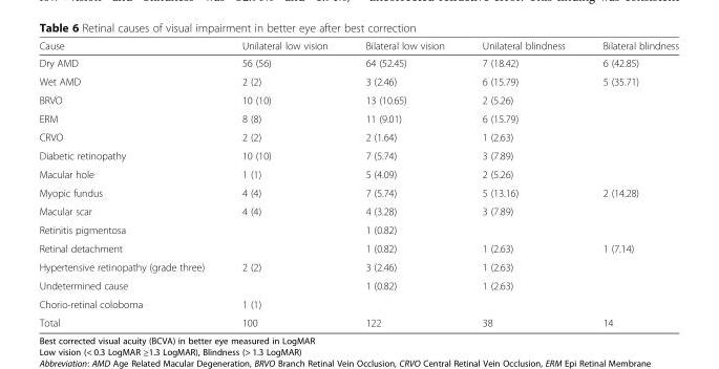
<table><thead><tr><td>Cause</td><td>Unilateral low vision</td><td>Bilateral low vision</td><td>Unilateral blindness</td><td>Bilateral blindness</td></tr></thead><tbody><tr><td>Dry AMD</td><td>56 (56)</td><td>64 (52.45)</td><td>7 (18.42)</td><td>6 (42.85)</td></tr><tr><td>Wet AMD</td><td>2 (2)</td><td>3 (2.46)</td><td>6 (15.79)</td><td>5 (35.71)</td></tr><tr><td>BRVO</td><td>10 (10)</td><td>13 (10.65)</td><td>2 (5.26)</td><td></td></tr><tr><td>ERM</td><td>8 (8)</td><td>11 (9.01)</td><td>6 (15.79)</td><td></td></tr><tr><td>CRVO</td><td>2 (2)</td><td>2 (1.64)</td><td>1 (2.63)</td><td></td></tr><tr><td>Diabetic retinopathy</td><td>10 (10)</td><td>7 (5.74)</td><td>3 (7.89)</td><td></td></tr><tr><td>Macular hole</td><td>1 (1)</td><td>5 (4.09)</td><td>2 (5.26)</td><td></td></tr><tr><td>Myopic fundus</td><td>4 (4)</td><td>7 (5.74)</td><td>5 (13.16)</td><td>2 (14.28)</td></tr><tr><td>Macular scar</td><td>4 (4)</td><td>4 (3.28)</td><td>3 (7.89)</td><td></td></tr><tr><td>Retinitis pigmentosa</td><td></td><td>1 (0.82)</td><td></td><td></td></tr><tr><td>Retinal detachment</td><td></td><td>1 (0.82)</td><td>1 (2.63)</td><td>1 (7.14)</td></tr><tr><td>Hypertensive retinopathy (grade three)</td><td>2 (2)</td><td>3 (2.46)</td><td>1 (2.63)</td><td></td></tr><tr><td>Undetermined cause</td><td></td><td>1 (0.82)</td><td>1 (2.63)</td><td></td></tr><tr><td>Chorio-retinal coloboma</td><td>1 (1)</td><td></td><td></td><td></td></tr><tr><td>Total</td><td>100</td><td>122</td><td>38</td><td>14</td></tr></tbody></table>